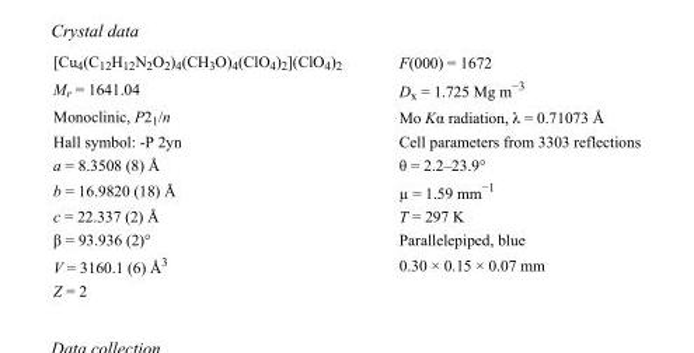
<table><tbody><tr><td>[Cu<sub>4</sub>(C<sub>12</sub>H<sub>12</sub>N<sub>2</sub>O<sub>2</sub>)<sub>4</sub>(CH<sub>3</sub>O)<sub>4</sub>(ClO<sub>4</sub>)<sub>2</sub>](ClO<sub>4</sub>)<sub>2</sub></td><td>F(000) = 1672</td></tr><tr><td>M<sub>r</sub> = 1641.04</td><td>D<sub>x</sub> = 1.725 Mg m<sup>−3</sup></td></tr><tr><td>Monoclinic, P2<sub>1</sub>/n</td><td>Mo Kα radiation, λ = 0.71073 Å</td></tr><tr><td>Hall symbol: -P 2yn</td><td>Cell parameters from 3303 reflections</td></tr><tr><td>a = 8.3508 (8) Å</td><td>θ = 2.2–23.9°</td></tr><tr><td>b = 16.9820 (18) Å</td><td>µ = 1.59 mm<sup>−1</sup></td></tr><tr><td>c = 22.337 (2) Å</td><td>T = 297 K</td></tr><tr><td>β = 93.936 (2)°</td><td>Parallelepiped, blue</td></tr><tr><td>V = 3160.1 (6) Å<sup>3</sup></td><td>0.30 × 0.15 × 0.07 mm</td></tr><tr><td>Z = 2</td><td></td></tr></tbody></table>